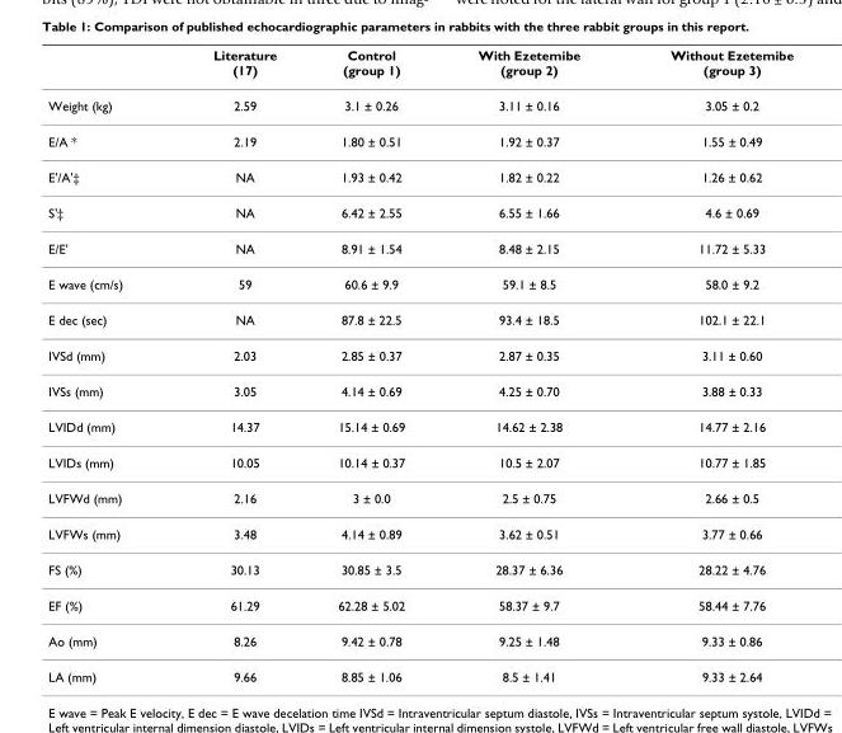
<table><thead><tr><td></td><td>Literature (17)</td><td>Control (group 1)</td><td>With Ezetemibe (group 2)</td><td>Without Ezetemibe (group 3)</td></tr></thead><tbody><tr><td>Weight (kg)</td><td>2.59</td><td>3.1 ± 0.26</td><td>3.11 ± 0.16</td><td>3.05 ± 0.2</td></tr><tr><td>E/A *</td><td>2.19</td><td>1.80 ± 0.51</td><td>1.92 ± 0.37</td><td>1.55 ± 0.49</td></tr><tr><td>E&#x27;/A&#x27;‡</td><td>NA</td><td>1.93 ± 0.42</td><td>1.82 ± 0.22</td><td>1.26 ± 0.62</td></tr><tr><td>S&#x27;‡</td><td>NA</td><td>6.42 ± 2.55</td><td>6.55 ± 1.66</td><td>4.6 ± 0.69</td></tr><tr><td>E/E&#x27;</td><td>NA</td><td>8.91 ± 1.54</td><td>8.48 ± 2.15</td><td>11.72 ± 5.33</td></tr><tr><td>E wave (cm/s)</td><td>59</td><td>60.6 ± 9.9</td><td>59.1 ± 8.5</td><td>58.0 ± 9.2</td></tr><tr><td>E dec (sec)</td><td>NA</td><td>87.8 ± 22.5</td><td>93.4 ± 18.5</td><td>102.1 ± 22.1</td></tr><tr><td>IVSd (mm)</td><td>2.03</td><td>2.85 ± 0.37</td><td>2.87 ± 0.35</td><td>3.11 ± 0.60</td></tr><tr><td>IVSs (mm)</td><td>3.05</td><td>4.14 ± 0.69</td><td>4.25 ± 0.70</td><td>3.88 ± 0.33</td></tr><tr><td>LVIDd (mm)</td><td>14.37</td><td>15.14 ± 0.69</td><td>14.62 ± 2.38</td><td>14.77 ± 2.16</td></tr><tr><td>LVIDs (mm)</td><td>10.05</td><td>10.14 ± 0.37</td><td>10.5 ± 2.07</td><td>10.77 ± 1.85</td></tr><tr><td>LVFWd (mm)</td><td>2.16</td><td>3 ± 0.0</td><td>2.5 ± 0.75</td><td>2.66 ± 0.5</td></tr><tr><td>LVFWs (mm)</td><td>3.48</td><td>4.14 ± 0.89</td><td>3.62 ± 0.51</td><td>3.77 ± 0.66</td></tr><tr><td>FS (%)</td><td>30.13</td><td>30.85 ± 3.5</td><td>28.37 ± 6.36</td><td>28.22 ± 4.76</td></tr><tr><td>EF (%)</td><td>61.29</td><td>62.28 ± 5.02</td><td>58.37 ± 9.7</td><td>58.44 ± 7.76</td></tr><tr><td>Ao (mm)</td><td>8.26</td><td>9.42 ± 0.78</td><td>9.25 ± 1.48</td><td>9.33 ± 0.86</td></tr><tr><td>LA (mm)</td><td>9.66</td><td>8.85 ± 1.06</td><td>8.5 ± 1.41</td><td>9.33 ± 2.64</td></tr></tbody></table>